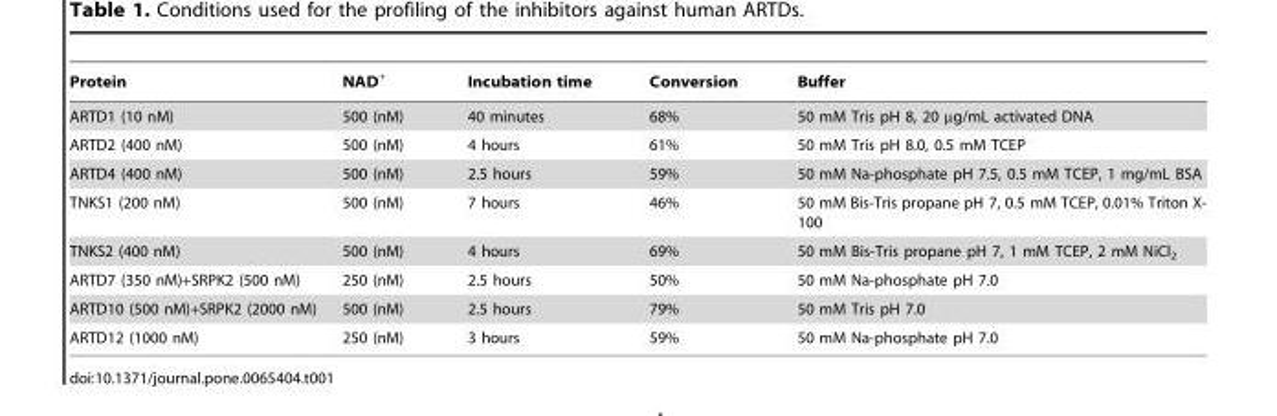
<table><thead><tr><td>Protein</td><td>NAD<sup>+</sup></td><td>Incubation time</td><td>Conversion</td><td>Buffer</td></tr></thead><tbody><tr><td>ARTD1 (10 nM)</td><td>500 (nM)</td><td>40 minutes</td><td>68%</td><td>50 mM Tris pH 8, 20 µg/mL activated DNA</td></tr><tr><td>ARTD2 (400 nM)</td><td>500 (nM)</td><td>4 hours</td><td>61%</td><td>50 mM Tris pH 8.0, 0.5 mM TCEP</td></tr><tr><td>ARTD4 (400 nM)</td><td>500 (nM)</td><td>2.5 hours</td><td>59%</td><td>50 mM Na-phosphate pH 7.5, 0.5 mM TCEP, 1 mg/mL BSA</td></tr><tr><td>TNKS1 (200 nM)</td><td>500 (nM)</td><td>7 hours</td><td>46%</td><td>50 mM Bis-Tris propane pH 7, 0.5 mM TCEP, 0.01% Triton X- 100</td></tr><tr><td>TNKS2 (400 nM)</td><td>500 (nM)</td><td>4 hours</td><td>69%</td><td>50 mM Bis-Tris propane pH 7, 1 mM TCEP, 2 mM NiCl<sub>2</sub></td></tr><tr><td>ARTD7 (350 nM)+SRPK2 (500 nM)</td><td>250 (nM)</td><td>2.5 hours</td><td>50%</td><td>50 mM Na-phosphate pH 7.0</td></tr><tr><td>ARTD10 (500 nM)+SRPK2 (2000 nM)</td><td>500 (nM)</td><td>2.5 hours</td><td>79%</td><td>50 mM Tris pH 7.0</td></tr><tr><td>ARTD12 (1000 nM)</td><td>250 (nM)</td><td>3 hours</td><td>59%</td><td>50 mM Na-phosphate pH 7.0</td></tr></tbody></table>